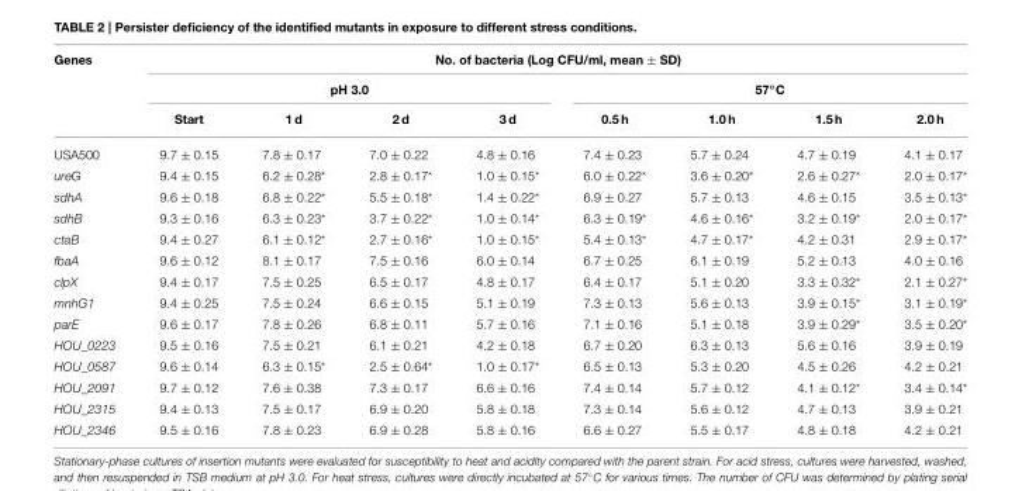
<table><thead><tr><td rowspan="3">Genes</td><td colspan="8">No. of bacteria (Log CFU/ml, mean ± SD)</td></tr><tr><td colspan="4">pH 3.0</td><td colspan="4">57◦C</td></tr><tr><td>Start</td><td>1 d</td><td>2 d</td><td>3 d</td><td>0.5 h</td><td>1.0 h</td><td>1.5 h</td><td>2.0 h</td></tr></thead><tbody><tr><td>USA500</td><td>9.7 ± 0.15</td><td>7.8 ± 0.17</td><td>7.0 ± 0.22</td><td>4.8 ± 0.16</td><td>7.4 ± 0.23</td><td>5.7 ± 0.24</td><td>4.7 ± 0.19</td><td>4.1 ± 0.17</td></tr><tr><td>ureG</td><td>9.4 ± 0.15</td><td>6.2 ± 0.28*</td><td>2.8 ± 0.17*</td><td>1.0 ± 0.15*</td><td>6.0 ± 0.22*</td><td>3.6 ± 0.20*</td><td>2.6 ± 0.27*</td><td>2.0 ± 0.17*</td></tr><tr><td>sdhA</td><td>9.6 ± 0.18</td><td>6.8 ± 0.22*</td><td>5.5 ± 0.18*</td><td>1.4 ± 0.22*</td><td>6.9 ± 0.27</td><td>5.7 ± 0.13</td><td>4.6 ± 0.15</td><td>3.5 ± 0.13*</td></tr><tr><td>sdhB</td><td>9.3 ± 0.16</td><td>6.3 ± 0.23*</td><td>3.7 ± 0.22*</td><td>1.0 ± 0.14*</td><td>6.3 ± 0.19*</td><td>4.6 ± 0.16*</td><td>3.2 ± 0.19*</td><td>2.0 ± 0.17*</td></tr><tr><td>ctaB</td><td>9.4 ± 0.27</td><td>6.1 ± 0.12*</td><td>2.7 ± 0.16*</td><td>1.0 ± 0.15*</td><td>5.4 ± 0.13*</td><td>4.7 ± 0.17*</td><td>4.2 ± 0.31</td><td>2.9 ± 0.17*</td></tr><tr><td>fbaA</td><td>9.6 ± 0.12</td><td>8.1 ± 0.17</td><td>7.5 ± 0.16</td><td>6.0 ± 0.14</td><td>6.7 ± 0.25</td><td>6.1 ± 0.19</td><td>5.2 ± 0.13</td><td>4.0 ± 0.16</td></tr><tr><td>clpX</td><td>9.4 ± 0.17</td><td>7.5 ± 0.25</td><td>6.5 ± 0.17</td><td>4.8 ± 0.17</td><td>6.4 ± 0.17</td><td>5.1 ± 0.20</td><td>3.3 ± 0.32*</td><td>2.1 ± 0.27*</td></tr><tr><td>mnhG1</td><td>9.4 ± 0.25</td><td>7.5 ± 0.24</td><td>6.6 ± 0.15</td><td>5.1 ± 0.19</td><td>7.3 ± 0.13</td><td>5.6 ± 0.13</td><td>3.9 ± 0.15*</td><td>3.1 ± 0.19*</td></tr><tr><td>parE</td><td>9.6 ± 0.17</td><td>7.8 ± 0.26</td><td>6.8 ± 0.11</td><td>5.7 ± 0.16</td><td>7.1 ± 0.16</td><td>5.1 ± 0.18</td><td>3.9 ± 0.29*</td><td>3.5 ± 0.20*</td></tr><tr><td>HOU_0223</td><td>9.5 ± 0.16</td><td>7.5 ± 0.21</td><td>6.1 ± 0.21</td><td>4.2 ± 0.18</td><td>6.7 ± 0.20</td><td>6.3 ± 0.13</td><td>5.6 ± 0.16</td><td>3.9 ± 0.19</td></tr><tr><td>HOU_0587</td><td>9.6 ± 0.14</td><td>6.3 ± 0.15*</td><td>2.5 ± 0.64*</td><td>1.0 ± 0.17*</td><td>6.5 ± 0.13</td><td>5.3 ± 0.20</td><td>4.5 ± 0.26</td><td>4.2 ± 0.21</td></tr><tr><td>HOU_2091</td><td>9.7 ± 0.12</td><td>7.6 ± 0.38</td><td>7.3 ± 0.17</td><td>6.6 ± 0.16</td><td>7.4 ± 0.14</td><td>5.7 ± 0.12</td><td>4.1 ± 0.12*</td><td>3.4 ± 0.14*</td></tr><tr><td>HOU_2315</td><td>9.4 ± 0.13</td><td>7.5 ± 0.17</td><td>6.9 ± 0.20</td><td>5.8 ± 0.18</td><td>7.3 ± 0.14</td><td>5.6 ± 0.12</td><td>4.7 ± 0.13</td><td>3.9 ± 0.21</td></tr><tr><td>HOU_2346</td><td>9.5 ± 0.16</td><td>7.8 ± 0.23</td><td>6.9 ± 0.28</td><td>5.8 ± 0.16</td><td>6.6 ± 0.27</td><td>5.5 ± 0.17</td><td>4.8 ± 0.18</td><td>4.2 ± 0.21</td></tr></tbody></table>